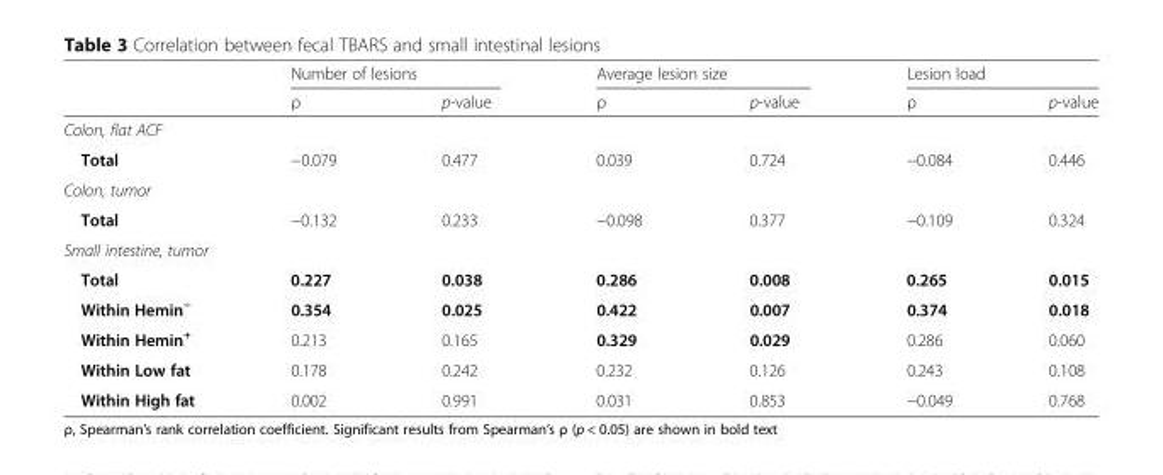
<table><thead><tr><td rowspan="2"></td><td colspan="2">Number of lesions</td><td colspan="2">Average lesion size</td><td colspan="2">Lesion load</td></tr><tr><td>ρ</td><td>p-value</td><td>ρ</td><td>p-value</td><td>ρ</td><td>p-value</td></tr></thead><tbody><tr><td colspan="7">Colon, flat ACF</td></tr><tr><td>Total</td><td>−0.079</td><td>0.477</td><td>0.039</td><td>0.724</td><td>−0.084</td><td>0.446</td></tr><tr><td colspan="7">Colon, tumor</td></tr><tr><td>Total</td><td>−0.132</td><td>0.233</td><td>−0.098</td><td>0.377</td><td>−0.109</td><td>0.324</td></tr><tr><td colspan="7">Small intestine, tumor</td></tr><tr><td>Total</td><td>0.227</td><td>0.038</td><td>0.286</td><td>0.008</td><td>0.265</td><td>0.015</td></tr><tr><td>Within Hemin<sup>−</sup></td><td>0.354</td><td>0.025</td><td>0.422</td><td>0.007</td><td>0.374</td><td>0.018</td></tr><tr><td>Within Hemin<sup>+</sup></td><td>0.213</td><td>0.165</td><td>0.329</td><td>0.029</td><td>0.286</td><td>0.060</td></tr><tr><td>Within Low fat</td><td>0.178</td><td>0.242</td><td>0.232</td><td>0.126</td><td>0.243</td><td>0.108</td></tr><tr><td>Within High fat</td><td>0.002</td><td>0.991</td><td>0.031</td><td>0.853</td><td>−0.049</td><td>0.768</td></tr></tbody></table>